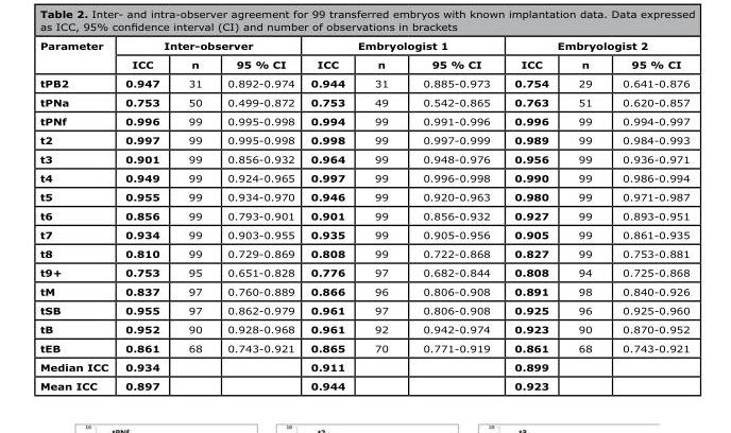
<table><thead><tr><td rowspan="2">Parameter</td><td colspan="3">Inter-observer</td><td colspan="3">Embryologist 1</td><td colspan="3">Embryologist 2</td></tr><tr><td>ICC</td><td>n</td><td>95 % CI</td><td>ICC</td><td>n</td><td>95 % CI</td><td>ICC</td><td>n</td><td>95 % CI</td></tr></thead><tbody><tr><td>tPB2</td><td>0.947</td><td>31</td><td>0.892-0.974</td><td>0.944</td><td>31</td><td>0.885-0.973</td><td>0.754</td><td>29</td><td>0.641-0.876</td></tr><tr><td>tPNa</td><td>0.753</td><td>50</td><td>0.499-0.872</td><td>0.753</td><td>49</td><td>0.542-0.865</td><td>0.763</td><td>51</td><td>0.620-0.857</td></tr><tr><td>tPNf</td><td>0.996</td><td>99</td><td>0.995-0.998</td><td>0.994</td><td>99</td><td>0.991-0.996</td><td>0.996</td><td>99</td><td>0.994-0.997</td></tr><tr><td>t2</td><td>0.997</td><td>99</td><td>0.995-0.998</td><td>0.998</td><td>99</td><td>0.997-0.999</td><td>0.989</td><td>99</td><td>0.984-0.993</td></tr><tr><td>t3</td><td>0.901</td><td>99</td><td>0.856-0.932</td><td>0.964</td><td>99</td><td>0.948-0.976</td><td>0.956</td><td>99</td><td>0.936-0.971</td></tr><tr><td>t4</td><td>0.949</td><td>99</td><td>0.924-0.965</td><td>0.997</td><td>99</td><td>0.996-0.998</td><td>0.990</td><td>99</td><td>0.986-0.994</td></tr><tr><td>t5</td><td>0.955</td><td>99</td><td>0.934-0.970</td><td>0.946</td><td>99</td><td>0.920-0.963</td><td>0.980</td><td>99</td><td>0.971-0.987</td></tr><tr><td>t6</td><td>0.856</td><td>99</td><td>0.793-0.901</td><td>0.901</td><td>99</td><td>0.856-0.932</td><td>0.927</td><td>99</td><td>0.893-0.951</td></tr><tr><td>t7</td><td>0.934</td><td>99</td><td>0.903-0.955</td><td>0.935</td><td>99</td><td>0.905-0.956</td><td>0.905</td><td>99</td><td>0.861-0.935</td></tr><tr><td>t8</td><td>0.810</td><td>99</td><td>0.729-0.869</td><td>0.808</td><td>99</td><td>0.722-0.868</td><td>0.827</td><td>99</td><td>0.753-0.881</td></tr><tr><td>t9+</td><td>0.753</td><td>95</td><td>0.651-0.828</td><td>0.776</td><td>97</td><td>0.682-0.844</td><td>0.808</td><td>94</td><td>0.725-0.868</td></tr><tr><td>tM</td><td>0.837</td><td>97</td><td>0.760-0.889</td><td>0.866</td><td>96</td><td>0.806-0.908</td><td>0.891</td><td>98</td><td>0.840-0.926</td></tr><tr><td>tSB</td><td>0.955</td><td>97</td><td>0.862-0.979</td><td>0.961</td><td>97</td><td>0.806-0.908</td><td>0.925</td><td>96</td><td>0.925-0.960</td></tr><tr><td>tB</td><td>0.952</td><td>90</td><td>0.928-0.968</td><td>0.961</td><td>92</td><td>0.942-0.974</td><td>0.923</td><td>90</td><td>0.870-0.952</td></tr><tr><td>tEB</td><td>0.861</td><td>68</td><td>0.743-0.921</td><td>0.865</td><td>70</td><td>0.771-0.919</td><td>0.861</td><td>68</td><td>0.743-0.921</td></tr><tr><td>Median ICC</td><td>0.934</td><td></td><td></td><td>0.911</td><td></td><td></td><td>0.899</td><td></td><td></td></tr><tr><td>Mean ICC</td><td>0.897</td><td></td><td></td><td>0.944</td><td></td><td></td><td>0.923</td><td></td><td></td></tr></tbody></table>